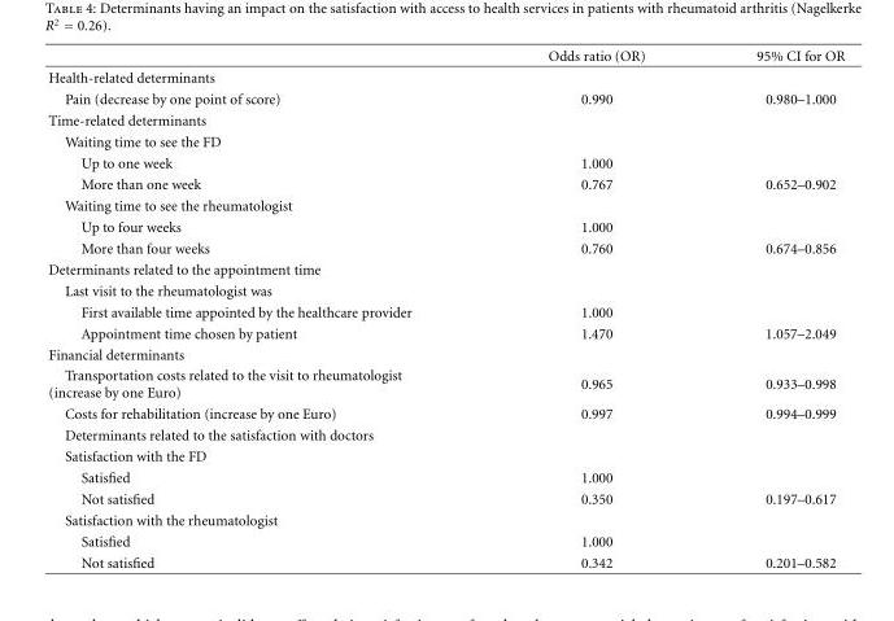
<table><thead><tr><td></td><td>Odds ratio (OR)</td><td>95% CI for OR</td></tr></thead><tbody><tr><td colspan="3">Health-related determinants</td></tr><tr><td>Pain (decrease by one point of score)</td><td>0.990</td><td>0.980–1.000</td></tr><tr><td colspan="3">Time-related determinants</td></tr><tr><td colspan="3">Waiting time to see the FD</td></tr><tr><td>Up to one week</td><td>1.000</td><td></td></tr><tr><td>More than one week</td><td>0.767</td><td>0.652–0.902</td></tr><tr><td colspan="3">Waiting time to see the rheumatologist</td></tr><tr><td>Up to four weeks</td><td>1.000</td><td></td></tr><tr><td>More than four weeks</td><td>0.760</td><td>0.674–0.856</td></tr><tr><td colspan="3">Determinants related to the appointment time</td></tr><tr><td colspan="3">Last visit to the rheumatologist was</td></tr><tr><td>First available time appointed by the healthcare provider</td><td>1.000</td><td></td></tr><tr><td>Appointment time chosen by patient</td><td>1.470</td><td>1.057–2.049</td></tr><tr><td colspan="3">Financial determinants</td></tr><tr><td>Transportation costs related to the visit to rheumatologist (increase by one Euro)</td><td>0.965</td><td>0.933–0.998</td></tr><tr><td>Costs for rehabilitation (increase by one Euro)</td><td>0.997</td><td>0.994–0.999</td></tr><tr><td colspan="3">Determinants related to the satisfaction with doctors</td></tr><tr><td colspan="3">Satisfaction with the FD</td></tr><tr><td>Satisfied</td><td>1.000</td><td></td></tr><tr><td>Not satisfied</td><td>0.350</td><td>0.197–0.617</td></tr><tr><td colspan="3">Satisfaction with the rheumatologist</td></tr><tr><td>Satisfied</td><td>1.000</td><td></td></tr><tr><td>Not satisfied</td><td>0.342</td><td>0.201–0.582</td></tr></tbody></table>